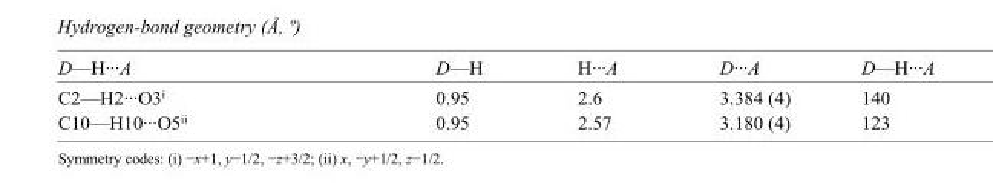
<table><tbody><tr><td>D—H···A</td><td>D—H</td><td>H···A</td><td>D···A</td><td>D—H···A</td></tr><tr><td>C2—H2···O3<sup>i</sup></td><td>0.95</td><td>2.6</td><td>3.384 (4)</td><td>140</td></tr><tr><td>C10—H10···O5<sup>ii</sup></td><td>0.95</td><td>2.57</td><td>3.180 (4)</td><td>123</td></tr></tbody></table>